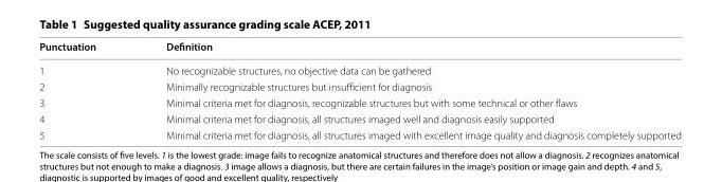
<table><thead><tr><td>Punctuation</td><td>Definition</td></tr></thead><tbody><tr><td>1</td><td>No recognizable structures, no objective data can be gathered</td></tr><tr><td>2</td><td>Minimally recognizable structures but insufficient for diagnosis</td></tr><tr><td>3</td><td>Minimal criteria met for diagnosis, recognizable structures but with some technical or other flaws</td></tr><tr><td>4</td><td>Minimal criteria met for diagnosis, all structures imaged well and diagnosis easily supported</td></tr><tr><td>5</td><td>Minimal criteria met for diagnosis, all structures imaged with excellent image quality and diagnosis completely supported</td></tr></tbody></table>